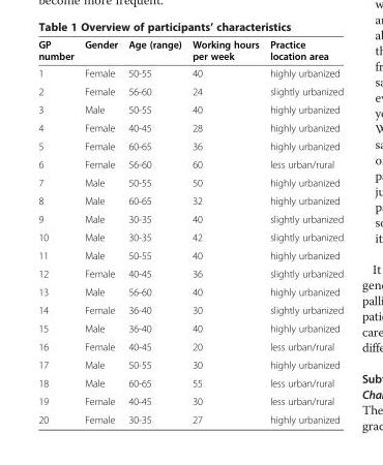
<table><thead><tr><td>GP number</td><td>Gender</td><td>Age (range)</td><td>Working hours per week</td><td>Practice location area</td></tr></thead><tbody><tr><td>1</td><td>Female</td><td>50-55</td><td>40</td><td>highly urbanized</td></tr><tr><td>2</td><td>Female</td><td>56-60</td><td>24</td><td>slightly urbanized</td></tr><tr><td>3</td><td>Male</td><td>50-55</td><td>40</td><td>highly urbanized</td></tr><tr><td>4</td><td>Female</td><td>40-45</td><td>28</td><td>highly urbanized</td></tr><tr><td>5</td><td>Female</td><td>60-65</td><td>36</td><td>highly urbanized</td></tr><tr><td>6</td><td>Female</td><td>56-60</td><td>60</td><td>less urban/rural</td></tr><tr><td>7</td><td>Male</td><td>50-55</td><td>50</td><td>highly urbanized</td></tr><tr><td>8</td><td>Male</td><td>60-65</td><td>32</td><td>highly urbanized</td></tr><tr><td>9</td><td>Male</td><td>30-35</td><td>40</td><td>slightly urbanized</td></tr><tr><td>10</td><td>Male</td><td>30-35</td><td>42</td><td>slightly urbanized</td></tr><tr><td>11</td><td>Male</td><td>50-55</td><td>40</td><td>highly urbanized</td></tr><tr><td>12</td><td>Female</td><td>40-45</td><td>36</td><td>slightly urbanized</td></tr><tr><td>13</td><td>Male</td><td>56-60</td><td>40</td><td>highly urbanized</td></tr><tr><td>14</td><td>Female</td><td>36-40</td><td>30</td><td>slightly urbanized</td></tr><tr><td>15</td><td>Male</td><td>36-40</td><td>40</td><td>highly urbanized</td></tr><tr><td>16</td><td>Female</td><td>40-45</td><td>20</td><td>less urban/rural</td></tr><tr><td>17</td><td>Male</td><td>50-55</td><td>30</td><td>highly urbanized</td></tr><tr><td>18</td><td>Male</td><td>60-65</td><td>55</td><td>less urban/rural</td></tr><tr><td>19</td><td>Female</td><td>40-45</td><td>30</td><td>less urban/rural</td></tr><tr><td>20</td><td>Female</td><td>30-35</td><td>27</td><td>highly urbanized</td></tr></tbody></table>